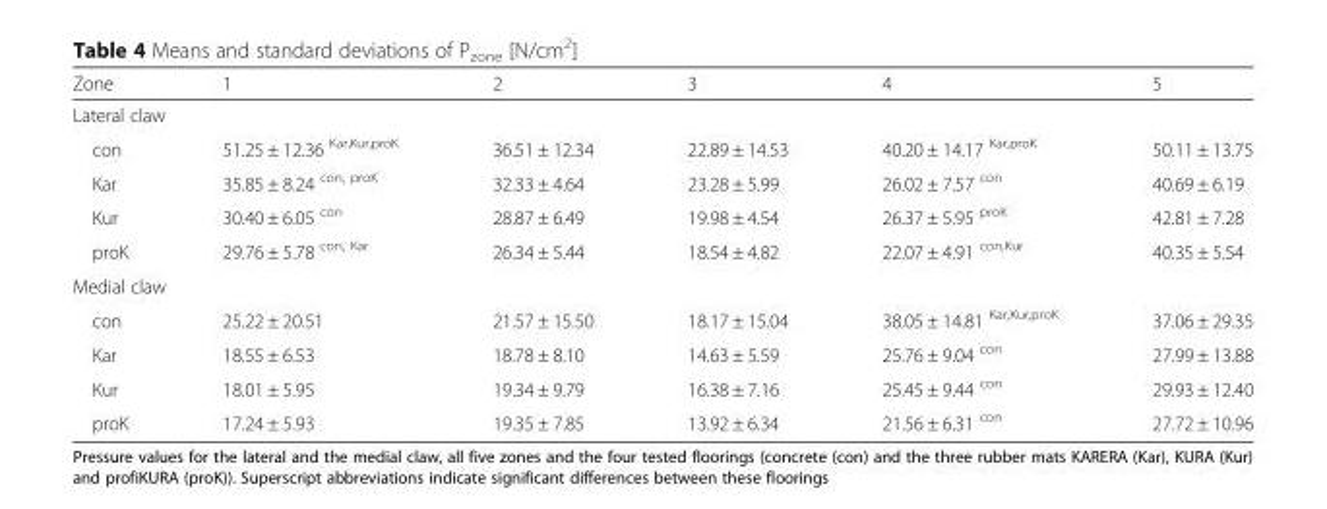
<table><thead><tr><td>Zone</td><td>1</td><td>2</td><td>3</td><td>4</td><td>5</td></tr></thead><tbody><tr><td colspan="6">Lateral claw</td></tr><tr><td>con</td><td>51.25 ± 12.36 <sup>Kar,Kur,proK</sup></td><td>36.51 ± 12.34</td><td>22.89 ± 14.53</td><td>40.20 ± 14.17 <sup>Kar,proK</sup></td><td>50.11 ± 13.75</td></tr><tr><td>Kar</td><td>35.85 ± 8.24 <sup>con, proK</sup></td><td>32.33 ± 4.64</td><td>23.28 ± 5.99</td><td>26.02 ± 7.57 <sup>con</sup></td><td>40.69 ± 6.19</td></tr><tr><td>Kur</td><td>30.40 ± 6.05 <sup>con</sup></td><td>28.87 ± 6.49</td><td>19.98 ± 4.54</td><td>26.37 ± 5.95 <sup>proK</sup></td><td>42.81 ± 7.28</td></tr><tr><td>proK</td><td>29.76 ± 5.78 <sup>con, Kar</sup></td><td>26.34 ± 5.44</td><td>18.54 ± 4.82</td><td>22.07 ± 4.91 <sup>con,Kur</sup></td><td>40.35 ± 5.54</td></tr><tr><td colspan="6">Medial claw</td></tr><tr><td>con</td><td>25.22 ± 20.51</td><td>21.57 ± 15.50</td><td>18.17 ± 15.04</td><td>38.05 ± 14.81 <sup>Kar,Kur,proK</sup></td><td>37.06 ± 29.35</td></tr><tr><td>Kar</td><td>18.55 ± 6.53</td><td>18.78 ± 8.10</td><td>14.63 ± 5.59</td><td>25.76 ± 9.04 <sup>con</sup></td><td>27.99 ± 13.88</td></tr><tr><td>Kur</td><td>18.01 ± 5.95</td><td>19.34 ± 9.79</td><td>16.38 ± 7.16</td><td>25.45 ± 9.44 <sup>con</sup></td><td>29.93 ± 12.40</td></tr><tr><td>proK</td><td>17.24 ± 5.93</td><td>19.35 ± 7.85</td><td>13.92 ± 6.34</td><td>21.56 ± 6.31 <sup>con</sup></td><td>27.72 ± 10.96</td></tr></tbody></table>